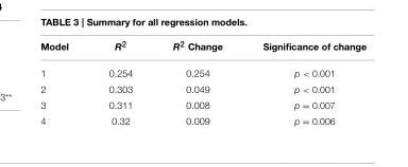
<table><thead><tr><td>Model</td><td>R<sup>2</sup></td><td>R<sup>2</sup> Change</td><td>Significance of change</td></tr></thead><tbody><tr><td>1</td><td>0.254</td><td>0.254</td><td>p &lt; 0.001</td></tr><tr><td>2</td><td>0.303</td><td>0.049</td><td>p &lt; 0.001</td></tr><tr><td>3</td><td>0.311</td><td>0.008</td><td>p = 0.007</td></tr><tr><td>4</td><td>0.32</td><td>0.009</td><td>p = 0.006</td></tr></tbody></table>